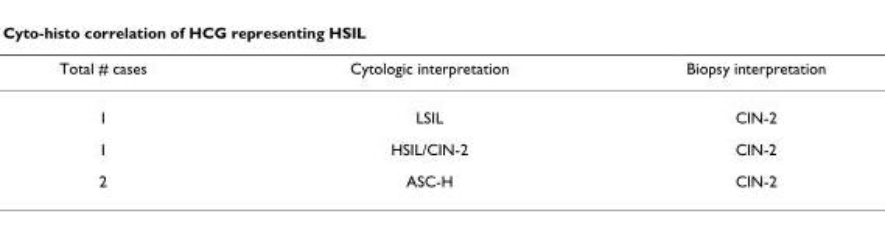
<table><thead><tr><td>Total # cases</td><td>Cytologic interpretation</td><td>Biopsy interpretation</td></tr></thead><tbody><tr><td>1</td><td>LSIL</td><td>CIN-2</td></tr><tr><td>1</td><td>HSIL/CIN-2</td><td>CIN-2</td></tr><tr><td>2</td><td>ASC-H</td><td>CIN-2</td></tr></tbody></table>